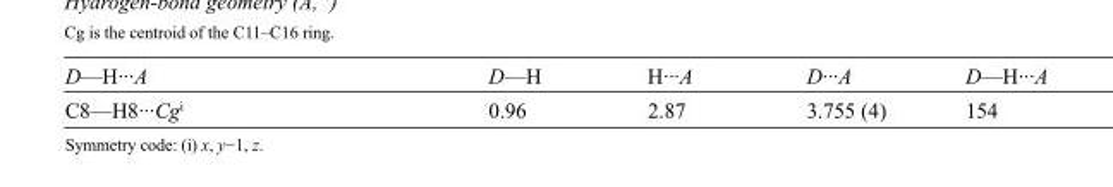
<table><tbody><tr><td>D—H···A</td><td>D—H</td><td>H···A</td><td>D···A</td><td>D—H···A</td></tr><tr><td>C8—H8···Cg<sup>i</sup></td><td>0.96</td><td>2.87</td><td>3.755 (4)</td><td>154</td></tr></tbody></table>